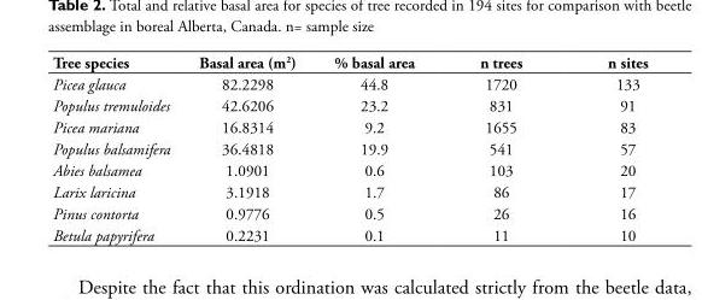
<table><thead><tr><td>Tree species</td><td>Basal area (m2)</td><td>% basal area</td><td>n trees</td><td>n sites</td></tr></thead><tbody><tr><td>Picea glauca</td><td>82.2298</td><td>44.8</td><td>1720</td><td>133</td></tr><tr><td>Populus tremuloides</td><td>42.6206</td><td>23.2</td><td>831</td><td>91</td></tr><tr><td>Picea mariana</td><td>16.8314</td><td>9.2</td><td>1655</td><td>83</td></tr><tr><td>Populus balsamifera</td><td>36.4818</td><td>19.9</td><td>541</td><td>57</td></tr><tr><td>Abies balsamea</td><td>1.0901</td><td>0.6</td><td>103</td><td>20</td></tr><tr><td>Larix laricina</td><td>3.1918</td><td>1.7</td><td>86</td><td>17</td></tr><tr><td>Pinus contorta</td><td>0.9776</td><td>0.5</td><td>26</td><td>16</td></tr><tr><td>Betula papyrifera</td><td>0.2231</td><td>0.1</td><td>11</td><td>10</td></tr></tbody></table>